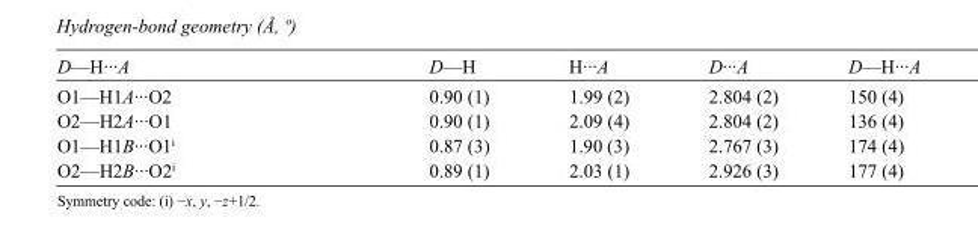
<table><tbody><tr><td>D—H···A</td><td>D—H</td><td>H···A</td><td>D···A</td><td>D—H···A</td></tr><tr><td>O1—H1A···O2</td><td>0.90 (1)</td><td>1.99 (2)</td><td>2.804 (2)</td><td>150 (4)</td></tr><tr><td>O2—H2A···O1</td><td>0.90 (1)</td><td>2.09 (4)</td><td>2.804 (2)</td><td>136 (4)</td></tr><tr><td>O1—H1B···O1<sup>i</sup></td><td>0.87 (3)</td><td>1.90 (3)</td><td>2.767 (3)</td><td>174 (4)</td></tr><tr><td>O2—H2B···O2<sup>i</sup></td><td>0.89 (1)</td><td>2.03 (1)</td><td>2.926 (3)</td><td>177 (4)</td></tr></tbody></table>